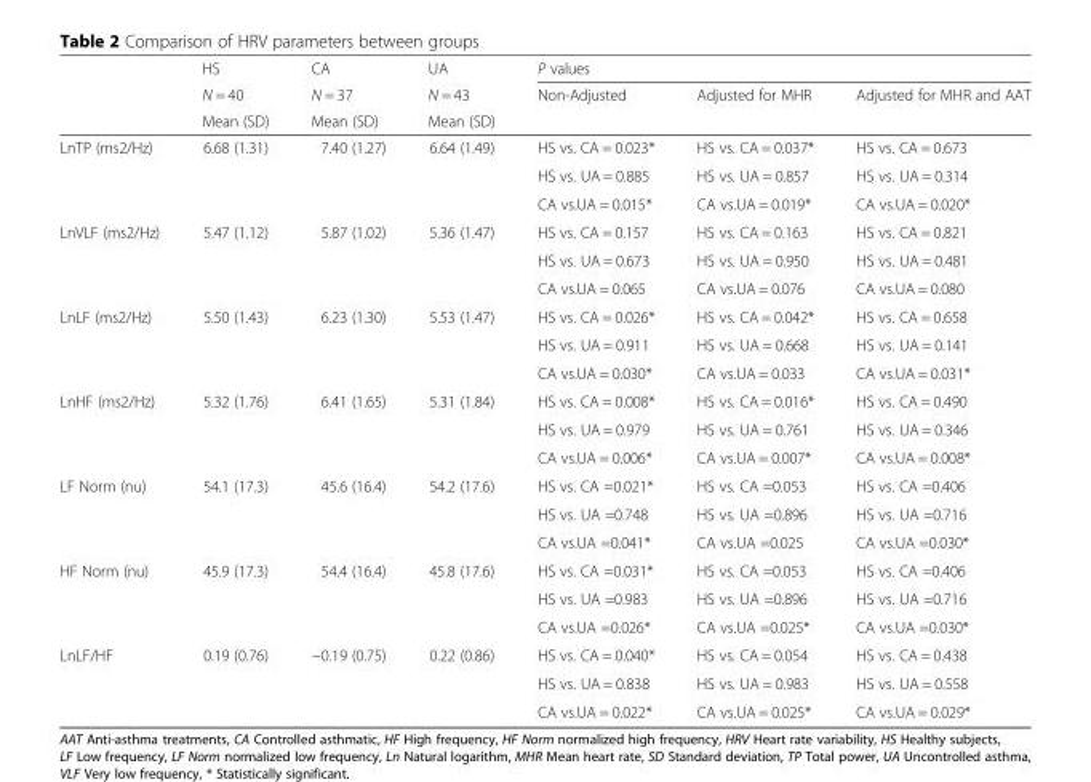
<table><thead><tr><td rowspan="3"></td><td rowspan="3">HS N = 40 Mean (SD)</td><td rowspan="3">CA N = 37 Mean (SD)</td><td rowspan="3">UA N = 43 Mean (SD)</td><td colspan="3">P values</td></tr><tr><td rowspan="2">Non-Adjusted</td><td rowspan="2">Adjusted for MHR</td><td rowspan="2">Adjusted for MHR and AAT</td></tr><tr></tr></thead><tbody><tr><td rowspan="3">LnTP (ms2/Hz)</td><td rowspan="3">6.68 (1.31)</td><td rowspan="3">7.40 (1.27)</td><td rowspan="3">6.64 (1.49)</td><td>HS vs. CA = 0.023*</td><td>HS vs. CA = 0.037*</td><td>HS vs. CA = 0.673</td></tr><tr><td>HS vs. UA = 0.885</td><td>HS vs. UA = 0.857</td><td>HS vs. UA = 0.314</td></tr><tr><td>CA vs.UA = 0.015*</td><td>CA vs.UA = 0.019*</td><td>CA vs.UA = 0.020*</td></tr><tr><td rowspan="3">LnVLF (ms2/Hz)</td><td rowspan="3">5.47 (1.12)</td><td rowspan="3">5.87 (1.02)</td><td rowspan="3">5.36 (1.47)</td><td>HS vs. CA = 0.157</td><td>HS vs. CA = 0.163</td><td>HS vs. CA = 0.821</td></tr><tr><td>HS vs. UA = 0.673</td><td>HS vs. UA = 0.950</td><td>HS vs. UA = 0.481</td></tr><tr><td>CA vs.UA = 0.065</td><td>CA vs.UA = 0.076</td><td>CA vs.UA = 0.080</td></tr><tr><td rowspan="3">LnLF (ms2/Hz)</td><td rowspan="3">5.50 (1.43)</td><td rowspan="3">6.23 (1.30)</td><td rowspan="3">5.53 (1.47)</td><td>HS vs. CA = 0.026*</td><td>HS vs. CA = 0.042*</td><td>HS vs. CA = 0.658</td></tr><tr><td>HS vs. UA = 0.911</td><td>HS vs. UA = 0.668</td><td>HS vs. UA = 0.141</td></tr><tr><td>CA vs.UA = 0.030*</td><td>CA vs.UA = 0.033</td><td>CA vs.UA = 0.031*</td></tr><tr><td rowspan="3">LnHF (ms2/Hz)</td><td rowspan="3">5.32 (1.76)</td><td rowspan="3">6.41 (1.65)</td><td rowspan="3">5.31 (1.84)</td><td>HS vs. CA = 0.008*</td><td>HS vs. CA = 0.016*</td><td>HS vs. CA = 0.490</td></tr><tr><td>HS vs. UA = 0.979</td><td>HS vs. UA = 0.761</td><td>HS vs. UA = 0.346</td></tr><tr><td>CA vs.UA = 0.006*</td><td>CA vs.UA = 0.007*</td><td>CA vs.UA = 0.008*</td></tr><tr><td rowspan="3">LF Norm (nu)</td><td rowspan="3">54.1 (17.3)</td><td rowspan="3">45.6 (16.4)</td><td rowspan="3">54.2 (17.6)</td><td>HS vs. CA =0.021*</td><td>HS vs. CA =0.053</td><td>HS vs. CA =0.406</td></tr><tr><td>HS vs. UA =0.748</td><td>HS vs. UA =0.896</td><td>HS vs. UA =0.716</td></tr><tr><td>CA vs.UA =0.041*</td><td>CA vs.UA =0.025</td><td>CA vs.UA =0.030*</td></tr><tr><td rowspan="3">HF Norm (nu)</td><td rowspan="3">45.9 (17.3)</td><td rowspan="3">54.4 (16.4)</td><td rowspan="3">45.8 (17.6)</td><td>HS vs. CA =0.031*</td><td>HS vs. CA =0.053</td><td>HS vs. CA =0.406</td></tr><tr><td>HS vs. UA =0.983</td><td>HS vs. UA =0.896</td><td>HS vs. UA =0.716</td></tr><tr><td>CA vs.UA =0.026*</td><td>CA vs.UA =0.025*</td><td>CA vs.UA =0.030*</td></tr><tr><td rowspan="3">LnLF/HF</td><td rowspan="3">0.19 (0.76)</td><td rowspan="3">−0.19 (0.75)</td><td rowspan="3">0.22 (0.86)</td><td>HS vs. CA = 0.040*</td><td>HS vs. CA = 0.054</td><td>HS vs. CA = 0.438</td></tr><tr><td>HS vs. UA = 0.838</td><td>HS vs. UA = 0.983</td><td>HS vs. UA = 0.558</td></tr><tr><td>CA vs.UA = 0.022*</td><td>CA vs.UA = 0.025*</td><td>CA vs.UA = 0.029*</td></tr></tbody></table>